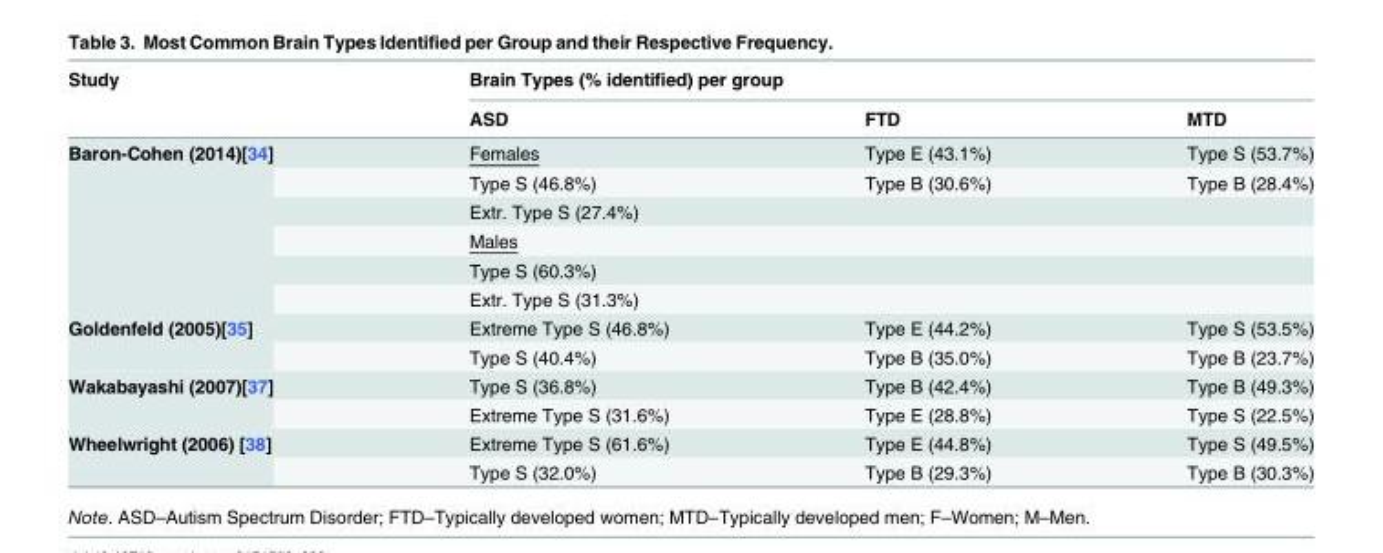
<table><thead><tr><td rowspan="2">Study</td><td colspan="3">Brain Types (% identified) per group</td></tr><tr><td>ASD</td><td>FTD</td><td>MTD</td></tr></thead><tbody><tr><td rowspan="6">Baron-Cohen (2014)[34]</td><td>Females</td><td>Type E (43.1%)</td><td>Type S (53.7%)</td></tr><tr><td>Type S (46.8%)</td><td>Type B (30.6%)</td><td>Type B (28.4%)</td></tr><tr><td>Extr. Type S (27.4%)</td><td></td><td></td></tr><tr><td>Males</td><td></td><td></td></tr><tr><td>Type S (60.3%)</td><td></td><td></td></tr><tr><td>Extr. Type S (31.3%)</td><td></td><td></td></tr><tr><td rowspan="2">Goldenfeld (2005)[35]</td><td>Extreme Type S (46.8%)</td><td>Type E (44.2%)</td><td>Type S (53.5%)</td></tr><tr><td>Type S (40.4%)</td><td>Type B (35.0%)</td><td>Type B (23.7%)</td></tr><tr><td rowspan="2">Wakabayashi (2007)[37]</td><td>Type S (36.8%)</td><td>Type B (42.4%)</td><td>Type B (49.3%)</td></tr><tr><td>Extreme Type S (31.6%)</td><td>Type E (28.8%)</td><td>Type S (22.5%)</td></tr><tr><td rowspan="2">Wheelwright (2006) [38]</td><td>Extreme Type S (61.6%)</td><td>Type E (44.8%)</td><td>Type S (49.5%)</td></tr><tr><td>Type S (32.0%)</td><td>Type B (29.3%)</td><td>Type B (30.3%)</td></tr></tbody></table>